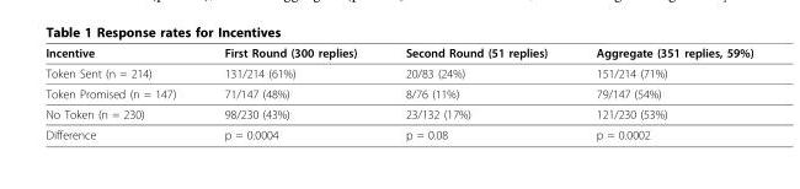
<table><thead><tr><td>Incentive</td><td>First Round (300 replies)</td><td>Second Round (51 replies)</td><td>Aggregate (351 replies, 59%)</td></tr></thead><tbody><tr><td>Token Sent (n = 214)</td><td>131/214 (61%)</td><td>20/83 (24%)</td><td>151/214 (71%)</td></tr><tr><td>Token Promised (n = 147)</td><td>71/147 (48%)</td><td>8/76 (11%)</td><td>79/147 (54%)</td></tr><tr><td>No Token (n = 230)</td><td>98/230 (43%)</td><td>23/132 (17%)</td><td>121/230 (53%)</td></tr><tr><td>Difference</td><td>p = 0.0004</td><td>p = 0.08</td><td>p = 0.0002</td></tr></tbody></table>